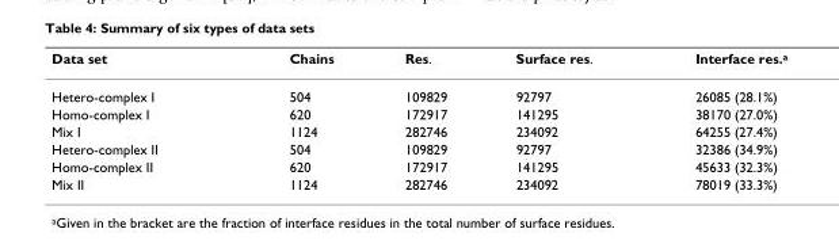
<table><thead><tr><td>Data set</td><td>Chains</td><td>Res.</td><td>Surface res.</td><td>Interface res.<sup>a</sup></td></tr></thead><tbody><tr><td>Hetero-complex I</td><td>504</td><td>109829</td><td>92797</td><td>26085 (28.1%)</td></tr><tr><td>Homo-complex I</td><td>620</td><td>172917</td><td>141295</td><td>38170 (27.0%)</td></tr><tr><td>Mix I</td><td>1124</td><td>282746</td><td>234092</td><td>64255 (27.4%)</td></tr><tr><td>Hetero-complex II</td><td>504</td><td>109829</td><td>92797</td><td>32386 (34.9%)</td></tr><tr><td>Homo-complex II</td><td>620</td><td>172917</td><td>141295</td><td>45633 (32.3%)</td></tr><tr><td>Mix II</td><td>1124</td><td>282746</td><td>234092</td><td>78019 (33.3%)</td></tr></tbody></table>